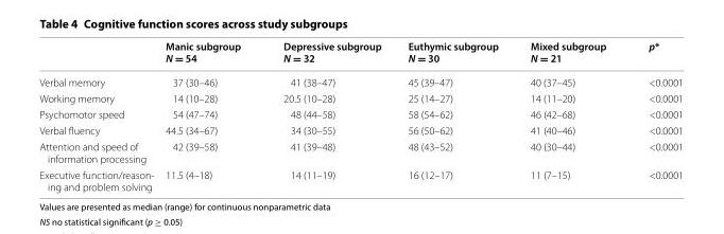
<table><thead><tr><td></td><td>Manic subgroup N = 54</td><td>Depressive subgroup N = 32</td><td>Euthymic subgroup N = 30</td><td>Mixed subgroup N = 21</td><td>p*</td></tr></thead><tbody><tr><td>Verbal memory</td><td>37 (30–46)</td><td>41 (38–47)</td><td>45 (39–47)</td><td>40 (37–45)</td><td>&lt;0.0001</td></tr><tr><td>Working memory</td><td>14 (10–28)</td><td>20.5 (10–28)</td><td>25 (14–27)</td><td>14 (11–20)</td><td>&lt;0.0001</td></tr><tr><td>Psychomotor speed</td><td>54 (47–74)</td><td>48 (44–58)</td><td>58 (54–62)</td><td>46 (42–68)</td><td>&lt;0.0001</td></tr><tr><td>Verbal fluency</td><td>44.5 (34–67)</td><td>34 (30–55)</td><td>56 (50–62)</td><td>41 (40–46)</td><td>&lt;0.0001</td></tr><tr><td>Attention and speed of information processing</td><td>42 (39–58)</td><td>41 (39–48)</td><td>48 (43–52)</td><td>40 (30–44)</td><td>&lt;0.0001</td></tr><tr><td>Executive function/reason- ing and problem solving</td><td>11.5 (4–18)</td><td>14 (11–19)</td><td>16 (12–17)</td><td>11 (7–15)</td><td>&lt;0.0001</td></tr></tbody></table>